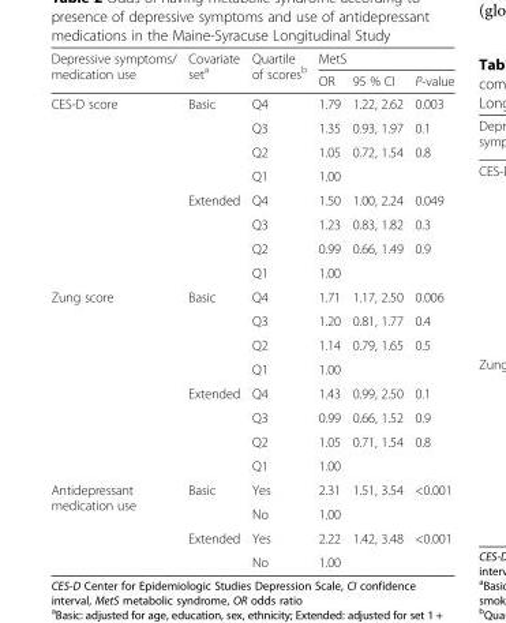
<table><thead><tr><td rowspan="2">Depressive symptoms/ medication use</td><td rowspan="2">Covariate set<sup>a</sup></td><td rowspan="2">Quartile of scores<sup>b</sup></td><td colspan="3">MetS</td></tr><tr><td>OR</td><td>95 % CI</td><td>P-value</td></tr></thead><tbody><tr><td rowspan="8">CES-D score</td><td>Basic</td><td>Q4</td><td>1.79</td><td>1.22, 2.62</td><td>0.003</td></tr><tr><td></td><td>Q3</td><td>1.35</td><td>0.93, 1.97</td><td>0.1</td></tr><tr><td></td><td>Q2</td><td>1.05</td><td>0.72, 1.54</td><td>0.8</td></tr><tr><td></td><td>Q1</td><td>1.00</td><td></td><td></td></tr><tr><td>Extended</td><td>Q4</td><td>1.50</td><td>1.00, 2.24</td><td>0.049</td></tr><tr><td></td><td>Q3</td><td>1.23</td><td>0.83, 1.82</td><td>0.3</td></tr><tr><td></td><td>Q2</td><td>0.99</td><td>0.66, 1.49</td><td>0.9</td></tr><tr><td></td><td>Q1</td><td>1.00</td><td></td><td></td></tr><tr><td rowspan="8">Zung score</td><td>Basic</td><td>Q4</td><td>1.71</td><td>1.17, 2.50</td><td>0.006</td></tr><tr><td></td><td>Q3</td><td>1.20</td><td>0.81, 1.77</td><td>0.4</td></tr><tr><td></td><td>Q2</td><td>1.14</td><td>0.79, 1.65</td><td>0.5</td></tr><tr><td></td><td>Q1</td><td>1.00</td><td></td><td></td></tr><tr><td>Extended</td><td>Q4</td><td>1.43</td><td>0.99, 2.50</td><td>0.1</td></tr><tr><td></td><td>Q3</td><td>0.99</td><td>0.66, 1.52</td><td>0.9</td></tr><tr><td></td><td>Q2</td><td>1.05</td><td>0.71, 1.54</td><td>0.8</td></tr><tr><td></td><td>Q1</td><td>1.00</td><td></td><td></td></tr><tr><td rowspan="4">Antidepressant medication use</td><td>Basic</td><td>Yes</td><td>2.31</td><td>1.51, 3.54</td><td>&lt;0.001</td></tr><tr><td></td><td>No</td><td>1.00</td><td></td><td></td></tr><tr><td>Extended</td><td>Yes</td><td>2.22</td><td>1.42, 3.48</td><td>&lt;0.001</td></tr><tr><td></td><td>No</td><td>1.00</td><td></td><td></td></tr></tbody></table>